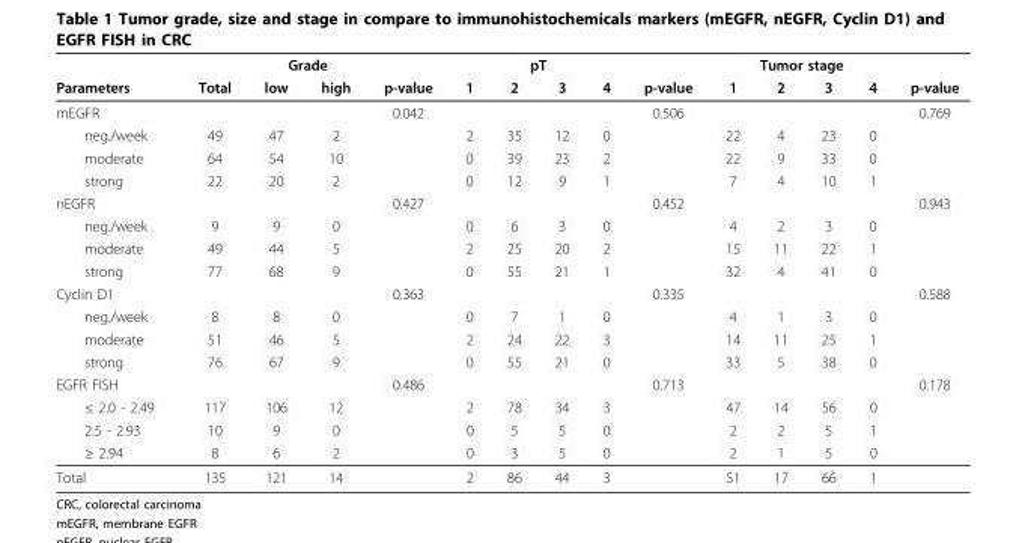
<table><thead><tr><td rowspan="2">Parameters</td><td rowspan="2">Total</td><td colspan="2">Grade</td><td rowspan="2">p-value</td><td colspan="4">pT</td><td rowspan="2">p-value</td><td colspan="4">Tumor stage</td><td rowspan="2">p-value</td></tr><tr><td>low</td><td>high</td><td>1</td><td>2</td><td>3</td><td>4</td><td>1</td><td>2</td><td>3</td><td>4</td></tr></thead><tbody><tr><td>mEGFR</td><td></td><td></td><td></td><td>0.042</td><td></td><td></td><td></td><td></td><td>0.506</td><td></td><td></td><td></td><td></td><td>0.769</td></tr><tr><td>neg./week</td><td>49</td><td>47</td><td>2</td><td></td><td>2</td><td>35</td><td>12</td><td>0</td><td></td><td>22</td><td>4</td><td>23</td><td>0</td><td></td></tr><tr><td>moderate</td><td>64</td><td>54</td><td>10</td><td></td><td>0</td><td>39</td><td>23</td><td>2</td><td></td><td>22</td><td>9</td><td>33</td><td>0</td><td></td></tr><tr><td>strong</td><td>22</td><td>20</td><td>2</td><td></td><td>0</td><td>12</td><td>9</td><td>1</td><td></td><td>7</td><td>4</td><td>10</td><td>1</td><td></td></tr><tr><td>nEGFR</td><td></td><td></td><td></td><td>0.427</td><td></td><td></td><td></td><td></td><td>0.452</td><td></td><td></td><td></td><td></td><td>0.943</td></tr><tr><td>neg./week</td><td>9</td><td>9</td><td>0</td><td></td><td>0</td><td>6</td><td>3</td><td>0</td><td></td><td>4</td><td>2</td><td>3</td><td>0</td><td></td></tr><tr><td>moderate</td><td>49</td><td>44</td><td>5</td><td></td><td>2</td><td>25</td><td>20</td><td>2</td><td></td><td>15</td><td>11</td><td>22</td><td>1</td><td></td></tr><tr><td>strong</td><td>77</td><td>68</td><td>9</td><td></td><td>0</td><td>55</td><td>21</td><td>1</td><td></td><td>32</td><td>4</td><td>41</td><td>0</td><td></td></tr><tr><td>Cyclin D1</td><td></td><td></td><td></td><td>0.363</td><td></td><td></td><td></td><td></td><td>0.335</td><td></td><td></td><td></td><td></td><td>0.588</td></tr><tr><td>neg./week</td><td>8</td><td>8</td><td>0</td><td></td><td>0</td><td>7</td><td>1</td><td>0</td><td></td><td>4</td><td>1</td><td>3</td><td>0</td><td></td></tr><tr><td>moderate</td><td>51</td><td>46</td><td>5</td><td></td><td>2</td><td>24</td><td>22</td><td>3</td><td></td><td>14</td><td>11</td><td>25</td><td>1</td><td></td></tr><tr><td>strong</td><td>76</td><td>67</td><td>9</td><td></td><td>0</td><td>55</td><td>21</td><td>0</td><td></td><td>33</td><td>5</td><td>38</td><td>0</td><td></td></tr><tr><td>EGFR FISH</td><td></td><td></td><td></td><td>0.486</td><td></td><td></td><td></td><td></td><td>0.713</td><td></td><td></td><td></td><td></td><td>0.178</td></tr><tr><td>≤ 2.0 - 2.49</td><td>117</td><td>106</td><td>12</td><td></td><td>2</td><td>78</td><td>34</td><td>3</td><td></td><td>47</td><td>14</td><td>56</td><td>0</td><td></td></tr><tr><td>2.5 - 2.93</td><td>10</td><td>9</td><td>0</td><td></td><td>0</td><td>5</td><td>5</td><td>0</td><td></td><td>2</td><td>2</td><td>5</td><td>1</td><td></td></tr><tr><td>≥ 2.94</td><td>8</td><td>6</td><td>2</td><td></td><td>0</td><td>3</td><td>5</td><td>0</td><td></td><td>2</td><td>1</td><td>5</td><td>0</td><td></td></tr><tr><td>Total</td><td>135</td><td>121</td><td>14</td><td></td><td>2</td><td>86</td><td>44</td><td>3</td><td></td><td>51</td><td>17</td><td>66</td><td>1</td><td></td></tr></tbody></table>